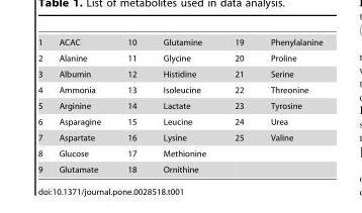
<table><tbody><tr><td>1</td><td>ACAC</td><td>10</td><td>Glutamine</td><td>19</td><td>Phenylalanine</td></tr><tr><td>2</td><td>Alanine</td><td>11</td><td>Glycine</td><td>20</td><td>Proline</td></tr><tr><td>3</td><td>Albumin</td><td>12</td><td>Histidine</td><td>21</td><td>Serine</td></tr><tr><td>4</td><td>Ammonia</td><td>13</td><td>Isoleucine</td><td>22</td><td>Threonine</td></tr><tr><td>5</td><td>Arginine</td><td>14</td><td>Lactate</td><td>23</td><td>Tyrosine</td></tr><tr><td>6</td><td>Asparagine</td><td>15</td><td>Leucine</td><td>24</td><td>Urea</td></tr><tr><td>7</td><td>Aspartate</td><td>16</td><td>Lysine</td><td>25</td><td>Valine</td></tr><tr><td>8</td><td>Glucose</td><td>17</td><td>Methionine</td><td></td><td></td></tr><tr><td>9</td><td>Glutamate</td><td>18</td><td>Ornithine</td><td></td><td></td></tr></tbody></table>